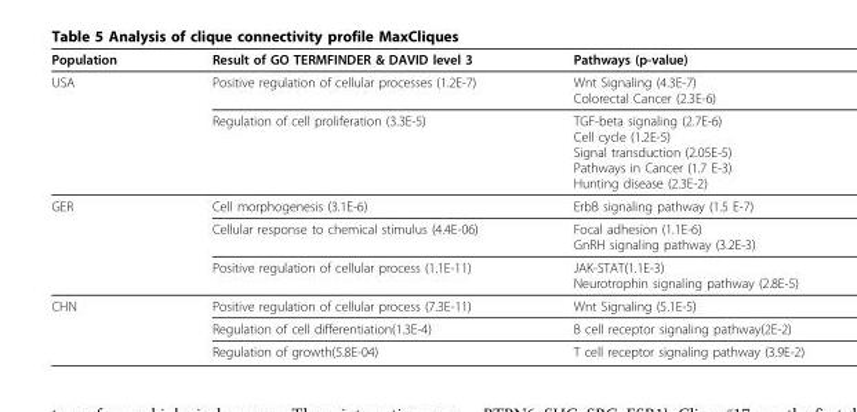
<table><thead><tr><td>Population</td><td>Result of GO TERMFINDER &amp; DAVID level 3</td><td>Pathways (p-value)</td></tr></thead><tbody><tr><td rowspan="2">USA</td><td>Positive regulation of cellular processes (1.2E-7)</td><td>Wnt Signaling (4.3E-7) Colorectal Cancer (2.3E-6)</td></tr><tr><td>Regulation of cell proliferation (3.3E-5)</td><td>TGF-beta signaling (2.7E-6) Cell cycle (1.2E-5) Signal transduction (2.05E-5) Pathways in Cancer (1.7 E-3) Hunting disease (2.3E-2)</td></tr><tr><td rowspan="3">GER</td><td>Cell morphogenesis (3.1E-6)</td><td>ErbB signaling pathway (1.5 E-7)</td></tr><tr><td>Cellular response to chemical stimulus (4.4E-06)</td><td>Focal adhesion (1.1E-6) GnRH signaling pathway (3.2E-3)</td></tr><tr><td>Positive regulation of cellular process (1.1E-11)</td><td>JAK-STAT(1.1E-3) Neurotrophin signaling pathway (2.8E-5)</td></tr><tr><td rowspan="3">CHN</td><td>Positive regulation of cellular process (7.3E-11)</td><td>Wnt Signaling (5.1E-5)</td></tr><tr><td>Regulation of cell differentiation(1.3E-4)</td><td>B cell receptor signaling pathway(2E-2)</td></tr><tr><td>Regulation of growth(5.8E-04)</td><td>T cell receptor signaling pathway (3.9E-2)</td></tr></tbody></table>